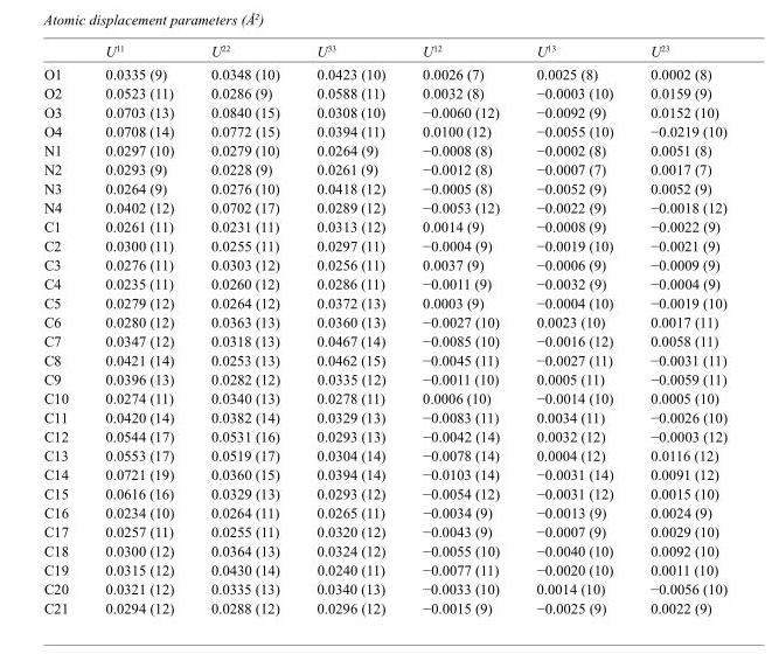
<table><thead><tr><td></td><td>U<sup>11</sup></td><td>U<sup>22</sup></td><td>U<sup>33</sup></td><td>U<sup>12</sup></td><td>U<sup>13</sup></td><td>U<sup>23</sup></td></tr></thead><tbody><tr><td>O1</td><td>0.0335 (9)</td><td>0.0348 (10)</td><td>0.0423 (10)</td><td>0.0026 (7)</td><td>0.0025 (8)</td><td>0.0002 (8)</td></tr><tr><td>O2</td><td>0.0523 (11)</td><td>0.0286 (9)</td><td>0.0588 (11)</td><td>0.0032 (8)</td><td>−0.0003 (10)</td><td>0.0159 (9)</td></tr><tr><td>O3</td><td>0.0703 (13)</td><td>0.0840 (15)</td><td>0.0308 (10)</td><td>−0.0060 (12)</td><td>−0.0092 (9)</td><td>0.0152 (10)</td></tr><tr><td>O4</td><td>0.0708 (14)</td><td>0.0772 (15)</td><td>0.0394 (11)</td><td>0.0100 (12)</td><td>−0.0055 (10)</td><td>−0.0219 (10)</td></tr><tr><td>N1</td><td>0.0297 (10)</td><td>0.0279 (10)</td><td>0.0264 (9)</td><td>−0.0008 (8)</td><td>−0.0002 (8)</td><td>0.0051 (8)</td></tr><tr><td>N2</td><td>0.0293 (9)</td><td>0.0228 (9)</td><td>0.0261 (9)</td><td>−0.0012 (8)</td><td>−0.0007 (7)</td><td>0.0017 (7)</td></tr><tr><td>N3</td><td>0.0264 (9)</td><td>0.0276 (10)</td><td>0.0418 (12)</td><td>−0.0005 (8)</td><td>−0.0052 (9)</td><td>0.0052 (9)</td></tr><tr><td>N4</td><td>0.0402 (12)</td><td>0.0702 (17)</td><td>0.0289 (12)</td><td>−0.0053 (12)</td><td>−0.0022 (9)</td><td>−0.0018 (12)</td></tr><tr><td>C1</td><td>0.0261 (11)</td><td>0.0231 (11)</td><td>0.0313 (12)</td><td>0.0014 (9)</td><td>−0.0008 (9)</td><td>−0.0022 (9)</td></tr><tr><td>C2</td><td>0.0300 (11)</td><td>0.0255 (11)</td><td>0.0297 (11)</td><td>−0.0004 (9)</td><td>−0.0019 (10)</td><td>−0.0021 (9)</td></tr><tr><td>C3</td><td>0.0276 (11)</td><td>0.0303 (12)</td><td>0.0256 (11)</td><td>0.0037 (9)</td><td>−0.0006 (9)</td><td>−0.0009 (9)</td></tr><tr><td>C4</td><td>0.0235 (11)</td><td>0.0260 (12)</td><td>0.0286 (11)</td><td>−0.0011 (9)</td><td>−0.0032 (9)</td><td>−0.0004 (9)</td></tr><tr><td>C5</td><td>0.0279 (12)</td><td>0.0264 (12)</td><td>0.0372 (13)</td><td>0.0003 (9)</td><td>−0.0004 (10)</td><td>−0.0019 (10)</td></tr><tr><td>C6</td><td>0.0280 (12)</td><td>0.0363 (13)</td><td>0.0360 (13)</td><td>−0.0027 (10)</td><td>0.0023 (10)</td><td>0.0017 (11)</td></tr><tr><td>C7</td><td>0.0347 (12)</td><td>0.0318 (13)</td><td>0.0467 (14)</td><td>−0.0085 (10)</td><td>−0.0016 (12)</td><td>0.0058 (11)</td></tr><tr><td>C8</td><td>0.0421 (14)</td><td>0.0253 (13)</td><td>0.0462 (15)</td><td>−0.0045 (11)</td><td>−0.0027 (11)</td><td>−0.0031 (11)</td></tr><tr><td>C9</td><td>0.0396 (13)</td><td>0.0282 (12)</td><td>0.0335 (12)</td><td>−0.0011 (10)</td><td>0.0005 (11)</td><td>−0.0059 (11)</td></tr><tr><td>C10</td><td>0.0274 (11)</td><td>0.0340 (13)</td><td>0.0278 (11)</td><td>0.0006 (10)</td><td>−0.0014 (10)</td><td>0.0005 (10)</td></tr><tr><td>C11</td><td>0.0420 (14)</td><td>0.0382 (14)</td><td>0.0329 (13)</td><td>−0.0083 (11)</td><td>0.0034 (11)</td><td>−0.0026 (10)</td></tr><tr><td>C12</td><td>0.0544 (17)</td><td>0.0531 (16)</td><td>0.0293 (13)</td><td>−0.0042 (14)</td><td>0.0032 (12)</td><td>−0.0003 (12)</td></tr><tr><td>C13</td><td>0.0553 (17)</td><td>0.0519 (17)</td><td>0.0304 (14)</td><td>−0.0078 (14)</td><td>0.0004 (12)</td><td>0.0116 (12)</td></tr><tr><td>C14</td><td>0.0721 (19)</td><td>0.0360 (15)</td><td>0.0394 (14)</td><td>−0.0103 (14)</td><td>−0.0031 (14)</td><td>0.0091 (12)</td></tr><tr><td>C15</td><td>0.0616 (16)</td><td>0.0329 (13)</td><td>0.0293 (12)</td><td>−0.0054 (12)</td><td>−0.0031 (12)</td><td>0.0015 (10)</td></tr><tr><td>C16</td><td>0.0234 (10)</td><td>0.0264 (11)</td><td>0.0265 (11)</td><td>−0.0034 (9)</td><td>−0.0013 (9)</td><td>0.0024 (9)</td></tr><tr><td>C17</td><td>0.0257 (11)</td><td>0.0255 (11)</td><td>0.0320 (12)</td><td>−0.0043 (9)</td><td>−0.0007 (9)</td><td>0.0029 (10)</td></tr><tr><td>C18</td><td>0.0300 (12)</td><td>0.0364 (13)</td><td>0.0324 (12)</td><td>−0.0055 (10)</td><td>−0.0040 (10)</td><td>0.0092 (10)</td></tr><tr><td>C19</td><td>0.0315 (12)</td><td>0.0430 (14)</td><td>0.0240 (11)</td><td>−0.0077 (11)</td><td>−0.0020 (10)</td><td>0.0011 (10)</td></tr><tr><td>C20</td><td>0.0321 (12)</td><td>0.0335 (13)</td><td>0.0340 (13)</td><td>−0.0033 (10)</td><td>0.0014 (10)</td><td>−0.0056 (10)</td></tr><tr><td>C21</td><td>0.0294 (12)</td><td>0.0288 (12)</td><td>0.0296 (12)</td><td>−0.0015 (9)</td><td>−0.0025 (9)</td><td>0.0022 (9)</td></tr></tbody></table>